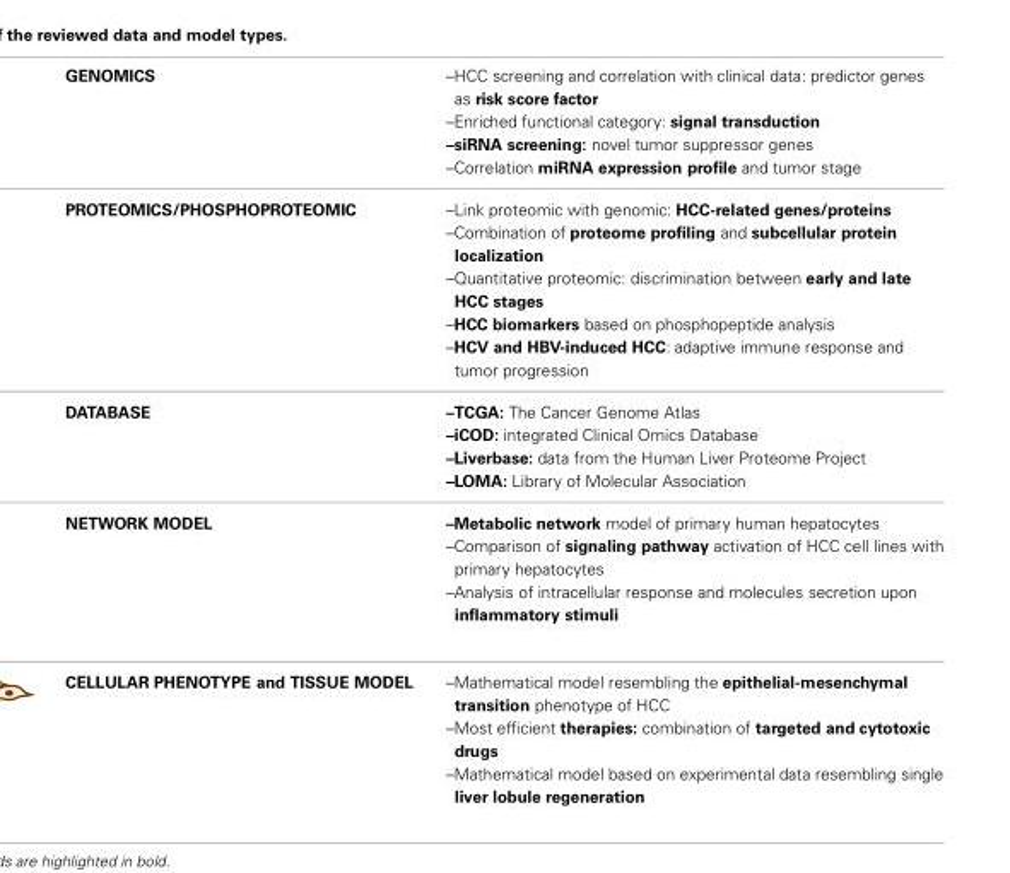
<table><tbody><tr><td>GENOMICS</td><td>–HCC screening and correlation with clinical data: predictor genes as risk score factor –Enriched functional category: signal transduction –siRNA screening: novel tumor suppressor genes –Correlation miRNA expression profile and tumor stage</td></tr><tr><td>PROTEOMICS/PHOSPHOPROTEOMIC</td><td>–Link proteomic with genomic: HCC-related genes/proteins –Combination of proteome profiling and subcellular protein localization –Quantitative proteomic: discrimination between early and late HCC stages –HCC biomarkers based on phosphopeptide analysis –HCV and HBV-induced HCC: adaptive immune response and tumor progression</td></tr><tr><td>DATABASE</td><td>–TCGA: The Cancer Genome Atlas –iCOD: integrated Clinical Omics Database –Liverbase: data from the Human Liver Proteome Project –LOMA: Library of Molecular Association</td></tr><tr><td>NETWORK MODEL</td><td>–Metabolic network model of primary human hepatocytes –Comparison of signaling pathway activation of HCC cell lines with primary hepatocytes –Analysis of intracellular response and molecules secretion upon inflammatory stimuli</td></tr><tr><td>CELLULAR PHENOTYPE and TISSUE MODEL</td><td>–Mathematical model resembling the epithelial-mesenchymal transition phenotype of HCC –Most efficient therapies: combination of targeted and cytotoxic drugs –Mathematical model based on experimental data resembling single liver lobule regeneration</td></tr></tbody></table>